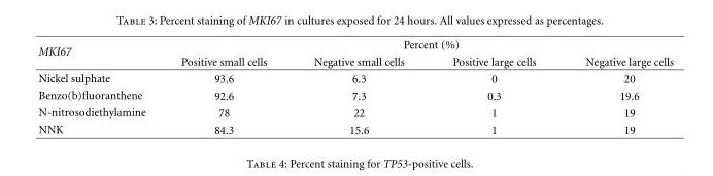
<table><thead><tr><td rowspan="2">MKI67</td><td colspan="4">Percent (%)</td></tr><tr><td>Positive small cells</td><td>Negative small cells</td><td>Positive large cells</td><td>Negative large cells</td></tr></thead><tbody><tr><td>Nickel sulphate</td><td>93.6</td><td>6.3</td><td>0</td><td>20</td></tr><tr><td>Benzo(b)fluoranthene</td><td>92.6</td><td>7.3</td><td>0.3</td><td>19.6</td></tr><tr><td>N-nitrosodiethylamine</td><td>78</td><td>22</td><td>1</td><td>19</td></tr><tr><td>NNK</td><td>84.3</td><td>15.6</td><td>1</td><td>19</td></tr></tbody></table>